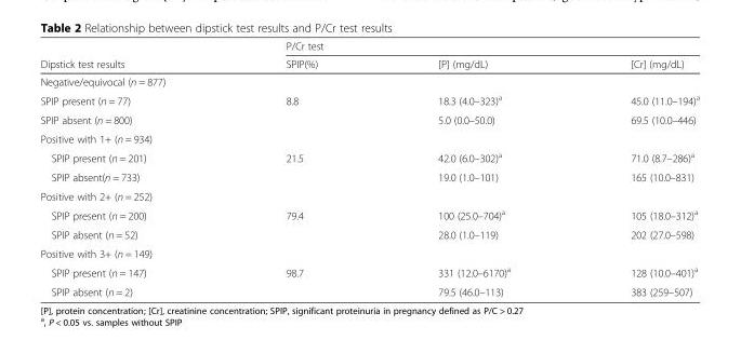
<table><thead><tr><td rowspan="2">Dipstick test results</td><td colspan="3">P/Cr test</td></tr><tr><td>SPIP(%)</td><td>[P] (mg/dL)</td><td>[Cr] (mg/dL)</td></tr></thead><tbody><tr><td colspan="4">Negative/equivocal (n = 877)</td></tr><tr><td>SPIP present (n = 77)</td><td>8.8</td><td>18.3 (4.0–323)<sup>a</sup></td><td>45.0 (11.0–194)<sup>a</sup></td></tr><tr><td>SPIP absent (n = 800)</td><td></td><td>5.0 (0.0–50.0)</td><td>69.5 (10.0–446)</td></tr><tr><td colspan="4">Positive with 1+ (n = 934)</td></tr><tr><td>SPIP present (n = 201)</td><td>21.5</td><td>42.0 (6.0–302)<sup>a</sup></td><td>71.0 (8.7–286)<sup>a</sup></td></tr><tr><td>SPIP absent(n = 733)</td><td></td><td>19.0 (1.0–101)</td><td>165 (10.0–831)</td></tr><tr><td colspan="4">Positive with 2+ (n = 252)</td></tr><tr><td>SPIP present (n = 200)</td><td>79.4</td><td>100 (25.0–704)<sup>a</sup></td><td>105 (18.0–312)<sup>a</sup></td></tr><tr><td>SPIP absent (n = 52)</td><td></td><td>28.0 (1.0–119)</td><td>202 (27.0–598)</td></tr><tr><td colspan="4">Positive with 3+ (n = 149)</td></tr><tr><td>SPIP present (n = 147)</td><td>98.7</td><td>331 (12.0–6170)<sup>a</sup></td><td>128 (10.0–401)<sup>a</sup></td></tr><tr><td>SPIP absent (n = 2)</td><td></td><td>79.5 (46.0–113)</td><td>383 (259–507)</td></tr></tbody></table>